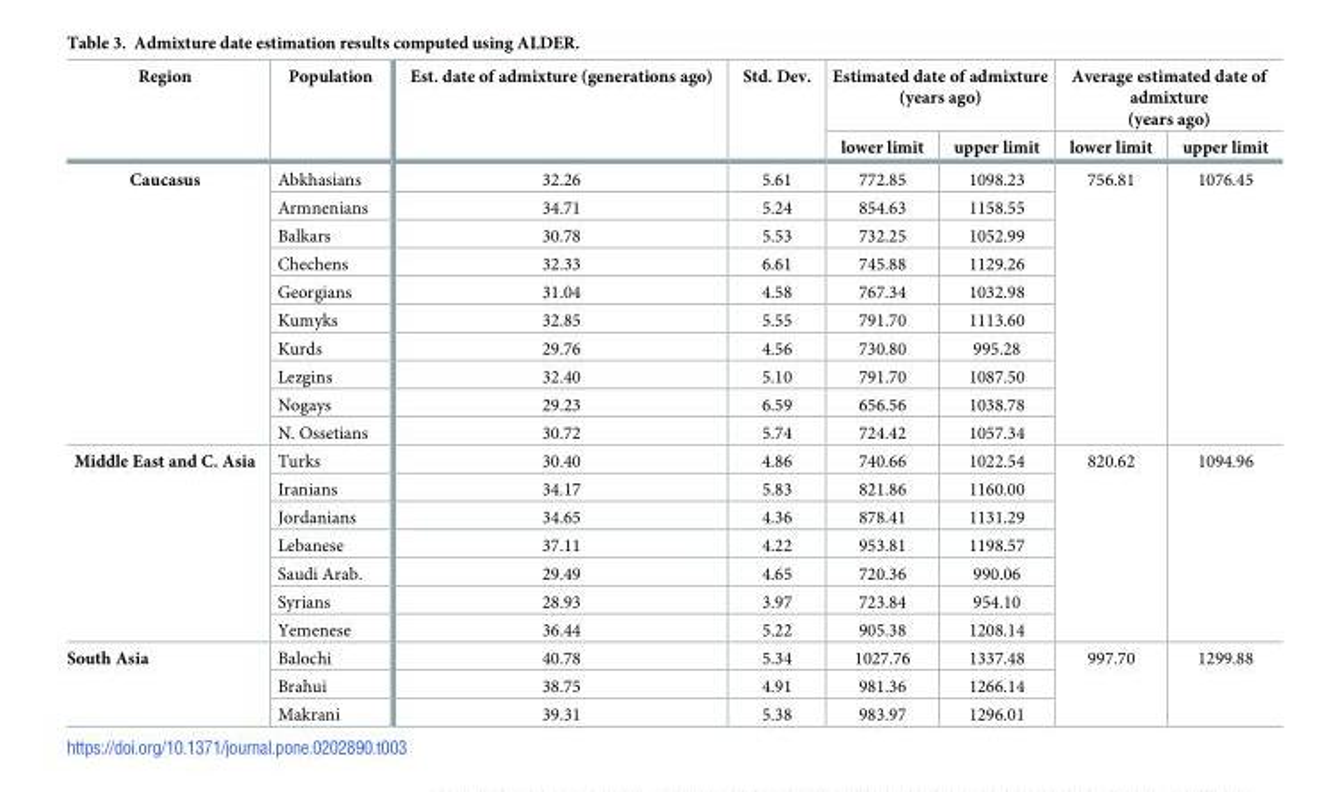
<table><thead><tr><td rowspan="2">Region</td><td rowspan="2">Population</td><td rowspan="2">Est. date of admixture (generations ago)</td><td rowspan="2">Std. Dev.</td><td colspan="2">Estimated date of admixture (years ago)</td><td colspan="2">Average estimated date of admixture (years ago)</td></tr><tr><td>lower limit</td><td>upper limit</td><td>lower limit</td><td>upper limit</td></tr></thead><tbody><tr><td rowspan="10">Caucasus</td><td>Abkhasians</td><td>32.26</td><td>5.61</td><td>772.85</td><td>1098.23</td><td rowspan="10">756.81</td><td rowspan="10">1076.45</td></tr><tr><td>Armnenians</td><td>34.71</td><td>5.24</td><td>854.63</td><td>1158.55</td></tr><tr><td>Balkars</td><td>30.78</td><td>5.53</td><td>732.25</td><td>1052.99</td></tr><tr><td>Chechens</td><td>32.33</td><td>6.61</td><td>745.88</td><td>1129.26</td></tr><tr><td>Georgians</td><td>31.04</td><td>4.58</td><td>767.34</td><td>1032.98</td></tr><tr><td>Kumyks</td><td>32.85</td><td>5.55</td><td>791.70</td><td>1113.60</td></tr><tr><td>Kurds</td><td>29.76</td><td>4.56</td><td>730.80</td><td>995.28</td></tr><tr><td>Lezgins</td><td>32.40</td><td>5.10</td><td>791.70</td><td>1087.50</td></tr><tr><td>Nogays</td><td>29.23</td><td>6.59</td><td>656.56</td><td>1038.78</td></tr><tr><td>N. Ossetians</td><td>30.72</td><td>5.74</td><td>724.42</td><td>1057.34</td></tr><tr><td rowspan="7">Middle East and C. Asia</td><td>Turks</td><td>30.40</td><td>4.86</td><td>740.66</td><td>1022.54</td><td rowspan="7">820.62</td><td rowspan="7">1094.96</td></tr><tr><td>Iranians</td><td>34.17</td><td>5.83</td><td>821.86</td><td>1160.00</td></tr><tr><td>Jordanians</td><td>34.65</td><td>4.36</td><td>878.41</td><td>1131.29</td></tr><tr><td>Lebanese</td><td>37.11</td><td>4.22</td><td>953.81</td><td>1198.57</td></tr><tr><td>Saudi Arab.</td><td>29.49</td><td>4.65</td><td>720.36</td><td>990.06</td></tr><tr><td>Syrians</td><td>28.93</td><td>3.97</td><td>723.84</td><td>954.10</td></tr><tr><td>Yemenese</td><td>36.44</td><td>5.22</td><td>905.38</td><td>1208.14</td></tr><tr><td rowspan="3">South Asia</td><td>Balochi</td><td>40.78</td><td>5.34</td><td>1027.76</td><td>1337.48</td><td rowspan="3">997.70</td><td rowspan="3">1299.88</td></tr><tr><td>Brahui</td><td>38.75</td><td>4.91</td><td>981.36</td><td>1266.14</td></tr><tr><td>Makrani</td><td>39.31</td><td>5.38</td><td>983.97</td><td>1296.01</td></tr></tbody></table>